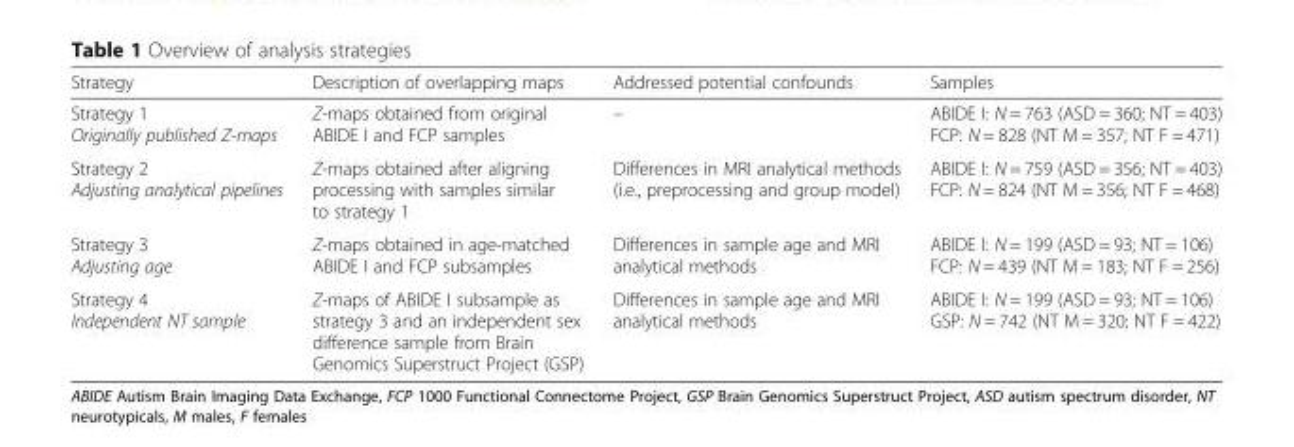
<table><thead><tr><td>Strategy</td><td>Description of overlapping maps</td><td>Addressed potential confounds</td><td>Samples</td></tr></thead><tbody><tr><td>Strategy 1 Originally published Z-maps</td><td>Z-maps obtained from original ABIDE I and FCP samples</td><td>–</td><td>ABIDE I: N = 763 (ASD = 360; NT = 403) FCP: N = 828 (NT M = 357; NT F = 471)</td></tr><tr><td>Strategy 2 Adjusting analytical pipelines</td><td>Z-maps obtained after aligning processing with samples similar to strategy 1</td><td>Differences in MRI analytical methods (i.e., preprocessing and group model)</td><td>ABIDE I: N = 759 (ASD = 356; NT = 403) FCP: N = 824 (NT M = 356; NT F = 468)</td></tr><tr><td>Strategy 3 Adjusting age</td><td>Z-maps obtained in age-matched ABIDE I and FCP subsamples</td><td>Differences in sample age and MRI analytical methods</td><td>ABIDE I: N = 199 (ASD = 93; NT = 106) FCP: N = 439 (NT M = 183; NT F = 256)</td></tr><tr><td>Strategy 4 Independent NT sample</td><td>Z-maps of ABIDE I subsample as strategy 3 and an independent sex difference sample from Brain Genomics Superstruct Project (GSP)</td><td>Differences in sample age and MRI analytical methods</td><td>ABIDE I: N = 199 (ASD = 93; NT = 106) GSP: N = 742 (NT M = 320; NT F = 422)</td></tr></tbody></table>